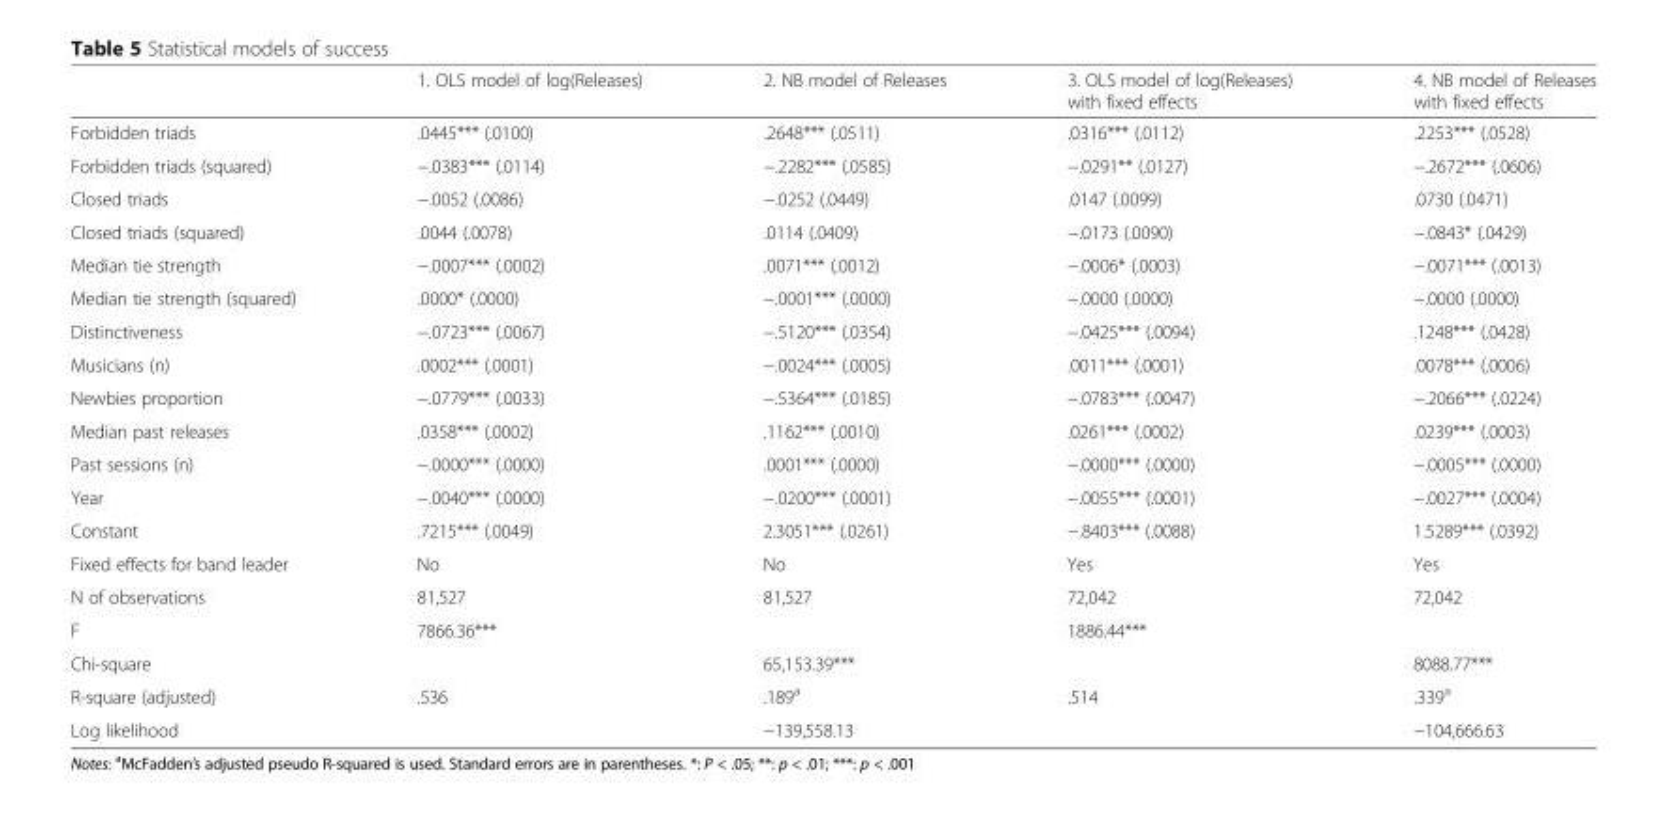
<table><thead><tr><td></td><td>1. OLS model of log(Releases)</td><td>2. NB model of Releases</td><td>3. OLS model of log(Releases) with fixed effects</td><td>4. NB model of Releases with fixed effects</td></tr></thead><tbody><tr><td>Forbidden triads</td><td>.0445*** (.0100)</td><td>.2648*** (.0511)</td><td>.0316*** (.0112)</td><td>.2253*** (.0528)</td></tr><tr><td>Forbidden triads (squared)</td><td>−.0383*** (.0114)</td><td>−.2282*** (.0585)</td><td>−.0291** (.0127)</td><td>−.2672*** (.0606)</td></tr><tr><td>Closed triads</td><td>−.0052 (.0086)</td><td>−.0252 (.0449)</td><td>.0147 (.0099)</td><td>.0730 (.0471)</td></tr><tr><td>Closed triads (squared)</td><td>.0044 (.0078)</td><td>.0114 (.0409)</td><td>−.0173 (.0090)</td><td>−.0843* (.0429)</td></tr><tr><td>Median tie strength</td><td>−.0007*** (.0002)</td><td>.0071*** (.0012)</td><td>−.0006* (.0003)</td><td>−.0071*** (.0013)</td></tr><tr><td>Median tie strength (squared)</td><td>.0000* (.0000)</td><td>−.0001*** (.0000)</td><td>−.0000 (.0000)</td><td>−.0000 (.0000)</td></tr><tr><td>Distinctiveness</td><td>−.0723*** (.0067)</td><td>−.5120*** (.0354)</td><td>−.0425*** (.0094)</td><td>.1248*** (.0428)</td></tr><tr><td>Musicians (n)</td><td>.0002*** (.0001)</td><td>−.0024*** (.0005)</td><td>.0011*** (.0001)</td><td>.0078*** (.0006)</td></tr><tr><td>Newbies proportion</td><td>−.0779*** (.0033)</td><td>−.5364*** (.0185)</td><td>−.0783*** (.0047)</td><td>−.2066*** (.0224)</td></tr><tr><td>Median past releases</td><td>.0358*** (.0002)</td><td>.1162*** (.0010)</td><td>.0261*** (.0002)</td><td>.0239*** (.0003)</td></tr><tr><td>Past sessions (n)</td><td>−.0000*** (.0000)</td><td>.0001*** (.0000)</td><td>−.0000*** (.0000)</td><td>−.0005*** (.0000)</td></tr><tr><td>Year</td><td>−.0040*** (.0000)</td><td>−.0200*** (.0001)</td><td>−.0055*** (.0001)</td><td>−.0027*** (.0004)</td></tr><tr><td>Constant</td><td>.7215*** (.0049)</td><td>2.3051*** (.0261)</td><td>−.8403*** (.0088)</td><td>1.5289*** (.0392)</td></tr><tr><td>Fixed effects for band leader</td><td>No</td><td>No</td><td>Yes</td><td>Yes</td></tr><tr><td>N of observations</td><td>81,527</td><td>81,527</td><td>72,042</td><td>72,042</td></tr><tr><td>F</td><td>7866.36***</td><td></td><td>1886.44***</td><td></td></tr><tr><td>Chi-square</td><td></td><td>65,153.39***</td><td></td><td>8088.77***</td></tr><tr><td>R-square (adjusted)</td><td>.536</td><td>.189<sup>a</sup></td><td>.514</td><td>.339<sup>a</sup></td></tr><tr><td>Log likelihood</td><td></td><td>−139,558.13</td><td></td><td>−104,666.63</td></tr></tbody></table>